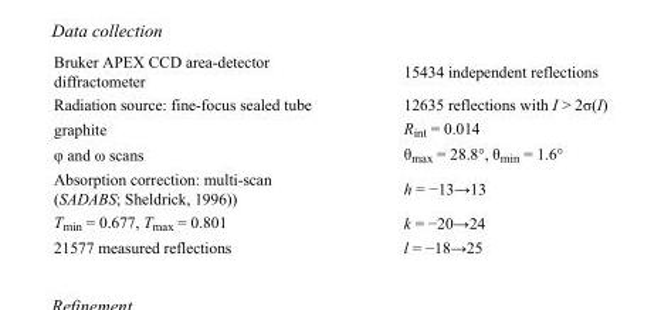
<table><tbody><tr><td>Bruker APEX CCD area-detector diffractometer</td><td>15434 independent reflections</td></tr><tr><td>Radiation source: fine-focus sealed tube</td><td>12635 reflections with I &gt; 2σ(I)</td></tr><tr><td>graphite</td><td>R<sub>int</sub> = 0.014</td></tr><tr><td>φ and ω scans</td><td>θ<sub>max</sub> = 28.8°, θ<sub>min</sub> = 1.6°</td></tr><tr><td>Absorption correction: multi-scan (SADABS; Sheldrick, 1996))</td><td>h = −13→13</td></tr><tr><td>T<sub>min</sub> = 0.677, T<sub>max</sub> = 0.801</td><td>k = −20→24</td></tr><tr><td>21577 measured reflections</td><td>l = −18→25</td></tr></tbody></table>